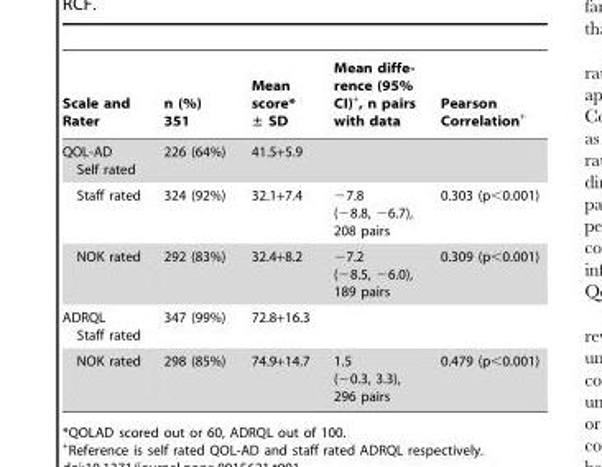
<table><thead><tr><td>Scale and Rater</td><td>n (%) 351</td><td>Mean score* ± SD</td><td>Mean diffe- rence (95% CI)+, n pairs with data</td><td>Pearson Correlation+</td></tr></thead><tbody><tr><td>QOL-AD Self rated</td><td>226 (64%)</td><td>41.5+5.9</td><td></td><td></td></tr><tr><td>Staff rated</td><td>324 (92%)</td><td>32.1+7.4</td><td>−7.8 (−8.8, −6.7), 208 pairs</td><td>0.303 (p&lt;0.001)</td></tr><tr><td>NOK rated</td><td>292 (83%)</td><td>32.4+8.2</td><td>−7.2 (−8.5, −6.0), 189 pairs</td><td>0.309 (p&lt;0.001)</td></tr><tr><td>ADRQL Staff rated</td><td>347 (99%)</td><td>72.8+16.3</td><td></td><td></td></tr><tr><td>NOK rated</td><td>298 (85%)</td><td>74.9+14.7</td><td>1.5 (−0.3, 3.3), 296 pairs</td><td>0.479 (p&lt;0.001)</td></tr></tbody></table>